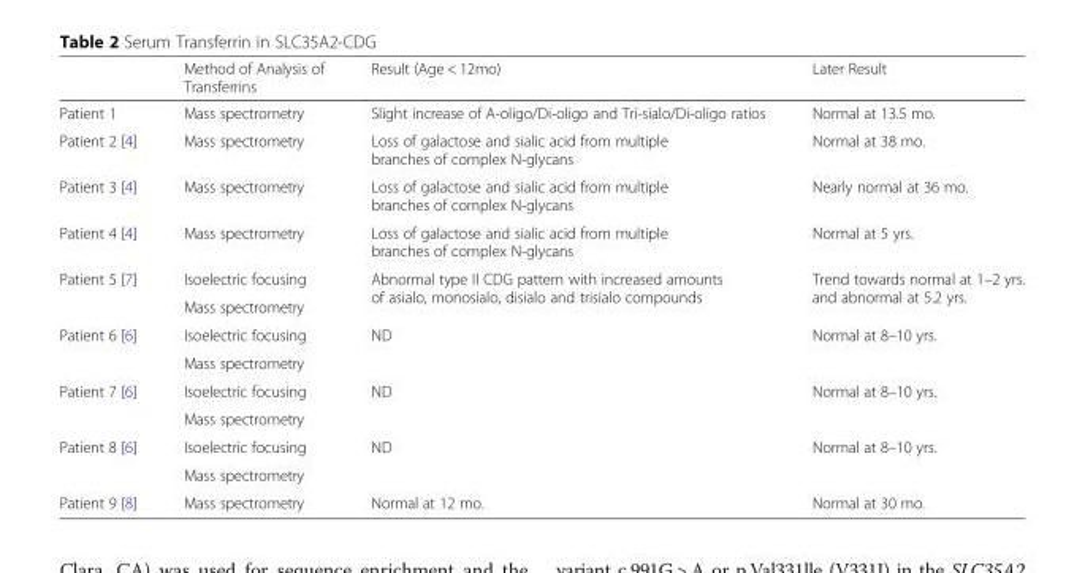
<table><thead><tr><td></td><td>Method of Analysis of Transferrins</td><td>Result (Age &lt; 12mo)</td><td>Later Result</td></tr></thead><tbody><tr><td>Patient 1</td><td>Mass spectrometry</td><td>Slight increase of A-oligo/Di-oligo and Tri-sialo/Di-oligo ratios</td><td>Normal at 13.5 mo.</td></tr><tr><td>Patient 2 [4]</td><td>Mass spectrometry</td><td>Loss of galactose and sialic acid from multiple branches of complex N-glycans</td><td>Normal at 38 mo.</td></tr><tr><td>Patient 3 [4]</td><td>Mass spectrometry</td><td>Loss of galactose and sialic acid from multiple branches of complex N-glycans</td><td>Nearly normal at 36 mo.</td></tr><tr><td>Patient 4 [4]</td><td>Mass spectrometry</td><td>Loss of galactose and sialic acid from multiple branches of complex N-glycans</td><td>Normal at 5 yrs.</td></tr><tr><td rowspan="2">Patient 5 [7]</td><td>Isoelectric focusing</td><td rowspan="2">Abnormal type II CDG pattern with increased amounts of asialo, monosialo, disialo and trisialo compounds</td><td rowspan="2">Trend towards normal at 1–2 yrs. and abnormal at 5.2 yrs.</td></tr><tr><td>Mass spectrometry</td></tr><tr><td rowspan="2">Patient 6 [6]</td><td>Isoelectric focusing</td><td rowspan="2">ND</td><td rowspan="2">Normal at 8–10 yrs.</td></tr><tr><td>Mass spectrometry</td></tr><tr><td rowspan="2">Patient 7 [6]</td><td>Isoelectric focusing</td><td rowspan="2">ND</td><td rowspan="2">Normal at 8–10 yrs.</td></tr><tr><td>Mass spectrometry</td></tr><tr><td rowspan="2">Patient 8 [6]</td><td>Isoelectric focusing</td><td rowspan="2">ND</td><td rowspan="2">Normal at 8–10 yrs.</td></tr><tr><td>Mass spectrometry</td></tr><tr><td>Patient 9 [8]</td><td>Mass spectrometry</td><td>Normal at 12 mo.</td><td>Normal at 30 mo.</td></tr></tbody></table>